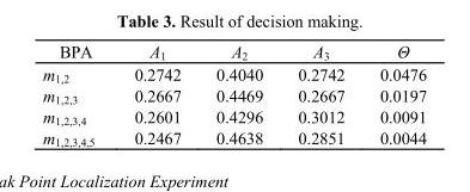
<table><thead><tr><td>BPA</td><td>A<sub>1</sub></td><td>A<sub>2</sub></td><td>A<sub>3</sub></td><td>Θ</td></tr></thead><tbody><tr><td>m<sub>1,2</sub></td><td>0.2742</td><td>0.4040</td><td>0.2742</td><td>0.0476</td></tr><tr><td>m<sub>1,2,3</sub></td><td>0.2667</td><td>0.4469</td><td>0.2667</td><td>0.0197</td></tr><tr><td>m<sub>1,2,3,4</sub></td><td>0.2601</td><td>0.4296</td><td>0.3012</td><td>0.0091</td></tr><tr><td>m<sub>1,2,3,4,5</sub></td><td>0.2467</td><td>0.4638</td><td>0.2851</td><td>0.0044</td></tr></tbody></table>